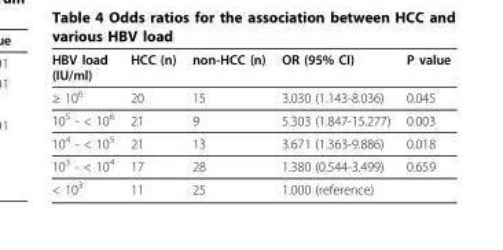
<table><thead><tr><td>HBV load (IU/ml)</td><td>HCC (n)</td><td>non-HCC (n)</td><td>OR (95% CI)</td><td>P value</td></tr></thead><tbody><tr><td>≥ 10<sup>6</sup></td><td>20</td><td>15</td><td>3.030 (1.143-8.036)</td><td>0.045</td></tr><tr><td>10<sup>5</sup> - &lt; 10<sup>6</sup></td><td>21</td><td>9</td><td>5.303 (1.847-15.277)</td><td>0.003</td></tr><tr><td>10<sup>4</sup> - &lt; 10<sup>5</sup></td><td>21</td><td>13</td><td>3.671 (1.363-9.886)</td><td>0.018</td></tr><tr><td>10<sup>3</sup> - &lt; 10<sup>4</sup></td><td>17</td><td>28</td><td>1.380 (0.544-3.499)</td><td>0.659</td></tr><tr><td>&lt; 10<sup>3</sup></td><td>11</td><td>25</td><td>1.000 (reference)</td><td></td></tr></tbody></table>